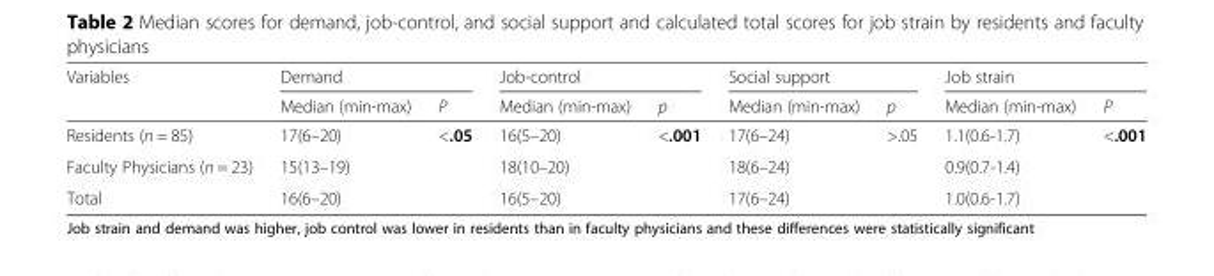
<table><thead><tr><td rowspan="2">Variables</td><td colspan="2">Demand</td><td colspan="2">Job-control</td><td colspan="2">Social support</td><td colspan="2">Job strain</td></tr><tr><td>Median (min-max)</td><td>P</td><td>Median (min-max)</td><td>p</td><td>Median (min-max)</td><td>p</td><td>Median (min-max)</td><td>P</td></tr></thead><tbody><tr><td>Residents (n = 85)</td><td>17(6–20)</td><td rowspan="3">&lt;.05</td><td>16(5–20)</td><td rowspan="3">&lt;.001</td><td>17(6–24)</td><td rowspan="3">&gt;.05</td><td>1.1(0.6-1.7)</td><td rowspan="3">&lt;.001</td></tr><tr><td>Faculty Physicians (n = 23)</td><td>15(13–19)</td><td>18(10–20)</td><td>18(6–24)</td><td>0.9(0.7-1.4)</td></tr><tr><td>Total</td><td>16(6–20)</td><td>16(5–20)</td><td>17(6–24)</td><td>1.0(0.6-1.7)</td></tr></tbody></table>